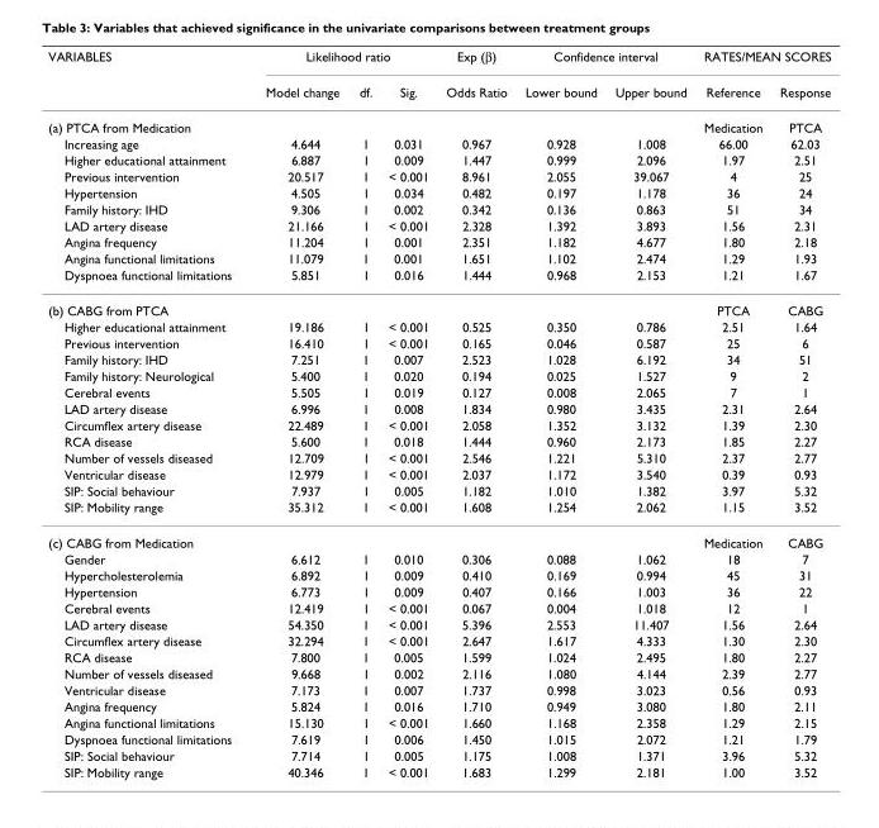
<table><thead><tr><td rowspan="2">VARIABLES</td><td colspan="3">Likelihood ratio</td><td rowspan="2">Exp (β) Odds Ratio</td><td colspan="2">Confidence interval</td><td colspan="2">RATES/MEAN SCORES</td></tr><tr><td>Model change</td><td>df.</td><td>Sig.</td><td>Lower bound</td><td>Upper bound</td><td>Reference</td><td>Response</td></tr></thead><tbody><tr><td>(a) PTCA from Medication</td><td></td><td></td><td></td><td></td><td></td><td></td><td>Medication</td><td>PTCA</td></tr><tr><td>Increasing age</td><td>4.644</td><td>1</td><td>0.031</td><td>0.967</td><td>0.928</td><td>1.008</td><td>66.00</td><td>62.03</td></tr><tr><td>Higher educational attainment</td><td>6.887</td><td>1</td><td>0.009</td><td>1.447</td><td>0.999</td><td>2.096</td><td>1.97</td><td>2.51</td></tr><tr><td>Previous intervention</td><td>20.517</td><td>1</td><td>&lt; 0.001</td><td>8.961</td><td>2.055</td><td>39.067</td><td>4</td><td>25</td></tr><tr><td>Hypertension</td><td>4.505</td><td>1</td><td>0.034</td><td>0.482</td><td>0.197</td><td>1.178</td><td>36</td><td>24</td></tr><tr><td>Family history: IHD</td><td>9.306</td><td>1</td><td>0.002</td><td>0.342</td><td>0.136</td><td>0.863</td><td>51</td><td>34</td></tr><tr><td>LAD artery disease</td><td>21.166</td><td>1</td><td>&lt; 0.001</td><td>2.328</td><td>1.392</td><td>3.893</td><td>1.56</td><td>2.31</td></tr><tr><td>Angina frequency</td><td>11.204</td><td>1</td><td>0.001</td><td>2.351</td><td>1.182</td><td>4.677</td><td>1.80</td><td>2.18</td></tr><tr><td>Angina functional limitations</td><td>11.079</td><td>1</td><td>0.001</td><td>1.651</td><td>1.102</td><td>2.474</td><td>1.29</td><td>1.93</td></tr><tr><td>Dyspnoea functional limitations</td><td>5.851</td><td>1</td><td>0.016</td><td>1.444</td><td>0.968</td><td>2.153</td><td>1.21</td><td>1.67</td></tr><tr><td>(b) CABG from PTCA</td><td></td><td></td><td></td><td></td><td></td><td></td><td>PTCA</td><td>CABG</td></tr><tr><td>Higher educational attainment</td><td>19.186</td><td>1</td><td>&lt; 0.001</td><td>0.525</td><td>0.350</td><td>0.786</td><td>2.51</td><td>1.64</td></tr><tr><td>Previous intervention</td><td>16.410</td><td>1</td><td>&lt; 0.001</td><td>0.165</td><td>0.046</td><td>0.587</td><td>25</td><td>6</td></tr><tr><td>Family history: IHD</td><td>7.251</td><td>1</td><td>0.007</td><td>2.523</td><td>1.028</td><td>6.192</td><td>34</td><td>51</td></tr><tr><td>Family history: Neurological</td><td>5.400</td><td>1</td><td>0.020</td><td>0.194</td><td>0.025</td><td>1.527</td><td>9</td><td>2</td></tr><tr><td>Cerebral events</td><td>5.505</td><td>1</td><td>0.019</td><td>0.127</td><td>0.008</td><td>2.065</td><td>7</td><td>1</td></tr><tr><td>LAD artery disease</td><td>6.996</td><td>1</td><td>0.008</td><td>1.834</td><td>0.980</td><td>3.435</td><td>2.31</td><td>2.64</td></tr><tr><td>Circumflex artery disease</td><td>22.489</td><td>1</td><td>&lt; 0.001</td><td>2.058</td><td>1.352</td><td>3.132</td><td>1.39</td><td>2.30</td></tr><tr><td>RCA disease</td><td>5.600</td><td>1</td><td>0.018</td><td>1.444</td><td>0.960</td><td>2.173</td><td>1.85</td><td>2.27</td></tr><tr><td>Number of vessels diseased</td><td>12.709</td><td>1</td><td>&lt; 0.001</td><td>2.546</td><td>1.221</td><td>5.310</td><td>2.37</td><td>2.77</td></tr><tr><td>Ventricular disease</td><td>12.979</td><td>1</td><td>&lt; 0.001</td><td>2.037</td><td>1.172</td><td>3.540</td><td>0.39</td><td>0.93</td></tr><tr><td>SIP: Social behaviour</td><td>7.937</td><td>1</td><td>0.005</td><td>1.182</td><td>1.010</td><td>1.382</td><td>3.97</td><td>5.32</td></tr><tr><td>SIP: Mobility range</td><td>35.312</td><td>1</td><td>&lt; 0.001</td><td>1.608</td><td>1.254</td><td>2.062</td><td>1.15</td><td>3.52</td></tr><tr><td>(c) CABG from Medication</td><td></td><td></td><td></td><td></td><td></td><td></td><td>Medication</td><td>CABG</td></tr><tr><td>Gender</td><td>6.612</td><td>1</td><td>0.010</td><td>0.306</td><td>0.088</td><td>1.062</td><td>18</td><td>7</td></tr><tr><td>Hypercholesterolemia</td><td>6.892</td><td>1</td><td>0.009</td><td>0.410</td><td>0.169</td><td>0.994</td><td>45</td><td>31</td></tr><tr><td>Hypertension</td><td>6.773</td><td>1</td><td>0.009</td><td>0.407</td><td>0.166</td><td>1.003</td><td>36</td><td>22</td></tr><tr><td>Cerebral events</td><td>12.419</td><td>1</td><td>&lt; 0.001</td><td>0.067</td><td>0.004</td><td>1.018</td><td>12</td><td>1</td></tr><tr><td>LAD artery disease</td><td>54.350</td><td>1</td><td>&lt; 0.001</td><td>5.396</td><td>2.553</td><td>11.407</td><td>1.56</td><td>2.64</td></tr><tr><td>Circumflex artery disease</td><td>32.294</td><td>1</td><td>&lt; 0.001</td><td>2.647</td><td>1.617</td><td>4.333</td><td>1.30</td><td>2.30</td></tr><tr><td>RCA disease</td><td>7.800</td><td>1</td><td>0.005</td><td>1.599</td><td>1.024</td><td>2.495</td><td>1.80</td><td>2.27</td></tr><tr><td>Number of vessels diseased</td><td>9.668</td><td>1</td><td>0.002</td><td>2.116</td><td>1.080</td><td>4.144</td><td>2.39</td><td>2.77</td></tr><tr><td>Ventricular disease</td><td>7.173</td><td>1</td><td>0.007</td><td>1.737</td><td>0.998</td><td>3.023</td><td>0.56</td><td>0.93</td></tr><tr><td>Angina frequency</td><td>5.824</td><td>1</td><td>0.016</td><td>1.710</td><td>0.949</td><td>3.080</td><td>1.80</td><td>2.11</td></tr><tr><td>Angina functional limitations</td><td>15.130</td><td>1</td><td>&lt; 0.001</td><td>1.660</td><td>1.168</td><td>2.358</td><td>1.29</td><td>2.15</td></tr><tr><td>Dyspnoea functional limitations</td><td>7.619</td><td>1</td><td>0.006</td><td>1.450</td><td>1.015</td><td>2.072</td><td>1.21</td><td>1.79</td></tr><tr><td>SIP: Social behaviour</td><td>7.714</td><td>1</td><td>0.005</td><td>1.175</td><td>1.008</td><td>1.371</td><td>3.96</td><td>5.32</td></tr><tr><td>SIP: Mobility range</td><td>40.346</td><td>1</td><td>&lt; 0.001</td><td>1.683</td><td>1.299</td><td>2.181</td><td>1.00</td><td>3.52</td></tr></tbody></table>